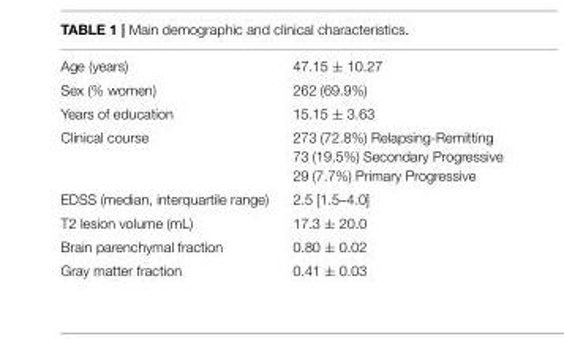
<table><tbody><tr><td>Age (years)</td><td>47.15 ± 10.27</td></tr><tr><td>Sex (% women)</td><td>262 (69.9%)</td></tr><tr><td>Years of education</td><td>15.15 ± 3.63</td></tr><tr><td>Clinical course</td><td>273 (72.8%) Relapsing-Remitting 73 (19.5%) Secondary Progressive 29 (7.7%) Primary Progressive</td></tr><tr><td>EDSS (median, interquartile range)</td><td>2.5 [1.5–4.0]</td></tr><tr><td>T2 lesion volume (mL)</td><td>17.3 ± 20.0</td></tr><tr><td>Brain parenchymal fraction</td><td>0.80 ± 0.02</td></tr><tr><td>Gray matter fraction</td><td>0.41 ± 0.03</td></tr></tbody></table>